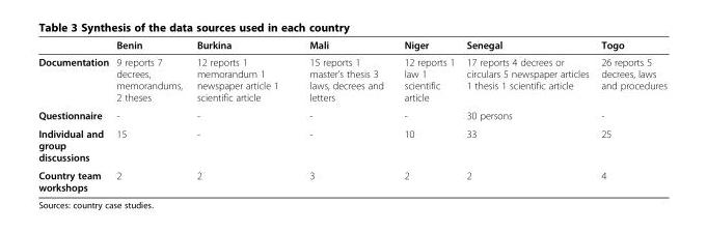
<table><thead><tr><td></td><td>Benin</td><td>Burkina</td><td>Mali</td><td>Niger</td><td>Senegal</td><td>Togo</td></tr></thead><tbody><tr><td>Documentation</td><td>9 reports 7 decrees, memorandums, 2 theses</td><td>12 reports 1 memorandum 1 newspaper article 1 scientific article</td><td>15 reports 1 master’s thesis 3 laws, decrees and letters</td><td>12 reports 1 law 1 scientific article</td><td>17 reports 4 decrees or circulars 5 newspaper articles 1 thesis 1 scientific article</td><td>26 reports 5 decrees, laws and procedures</td></tr><tr><td>Questionnaire</td><td>-</td><td>-</td><td>-</td><td>-</td><td>30 persons</td><td>-</td></tr><tr><td>Individual and group discussions</td><td>15</td><td>-</td><td>-</td><td>10</td><td>33</td><td>25</td></tr><tr><td>Country team workshops</td><td>2</td><td>2</td><td>3</td><td>2</td><td>2</td><td>4</td></tr></tbody></table>